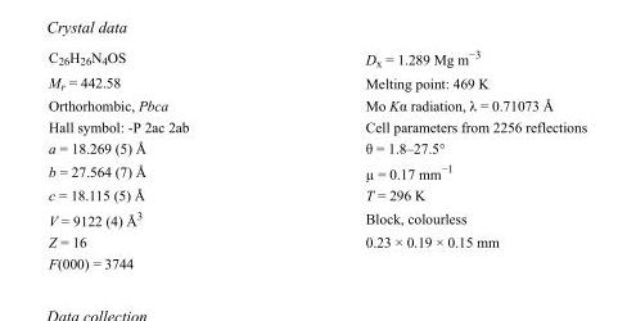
<table><tbody><tr><td>C<sub>26</sub>H<sub>26</sub>N<sub>4</sub>OS</td><td>D<sub>x</sub> = 1.289 Mg m<sup>−3</sup></td></tr><tr><td>M<sub>r</sub> = 442.58</td><td>Melting point: 469 K</td></tr><tr><td>Orthorhombic, Pbca</td><td>Mo Kα radiation, λ = 0.71073 Å</td></tr><tr><td>Hall symbol: -P 2ac 2ab</td><td>Cell parameters from 2256 reflections</td></tr><tr><td>a = 18.269 (5) Å</td><td>θ = 1.8–27.5°</td></tr><tr><td>b = 27.564 (7) Å</td><td>µ = 0.17 mm<sup>−1</sup></td></tr><tr><td>c = 18.115 (5) Å</td><td>T = 296 K</td></tr><tr><td>V = 9122 (4) Å<sup>3</sup></td><td>Block, colourless</td></tr><tr><td>Z = 16</td><td>0.23 × 0.19 × 0.15 mm</td></tr><tr><td>F(000) = 3744</td><td></td></tr></tbody></table>